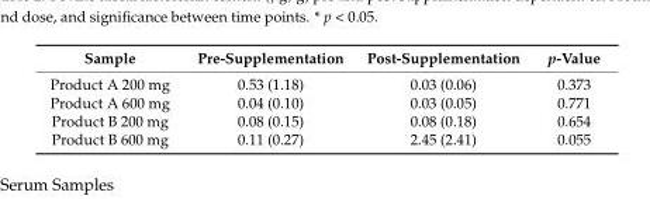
<table><thead><tr><td>Sample</td><td>Pre-Supplementation</td><td>Post-Supplementation</td><td>p-Value</td></tr></thead><tbody><tr><td>Product A 200 mg</td><td>0.53 (1.18)</td><td>0.03 (0.06)</td><td>0.373</td></tr><tr><td>Product A 600 mg</td><td>0.04 (0.10)</td><td>0.03 (0.05)</td><td>0.771</td></tr><tr><td>Product B 200 mg</td><td>0.08 (0.15)</td><td>0.08 (0.18)</td><td>0.654</td></tr><tr><td>Product B 600 mg</td><td>0.11 (0.27)</td><td>2.45 (2.41)</td><td>0.055</td></tr></tbody></table>